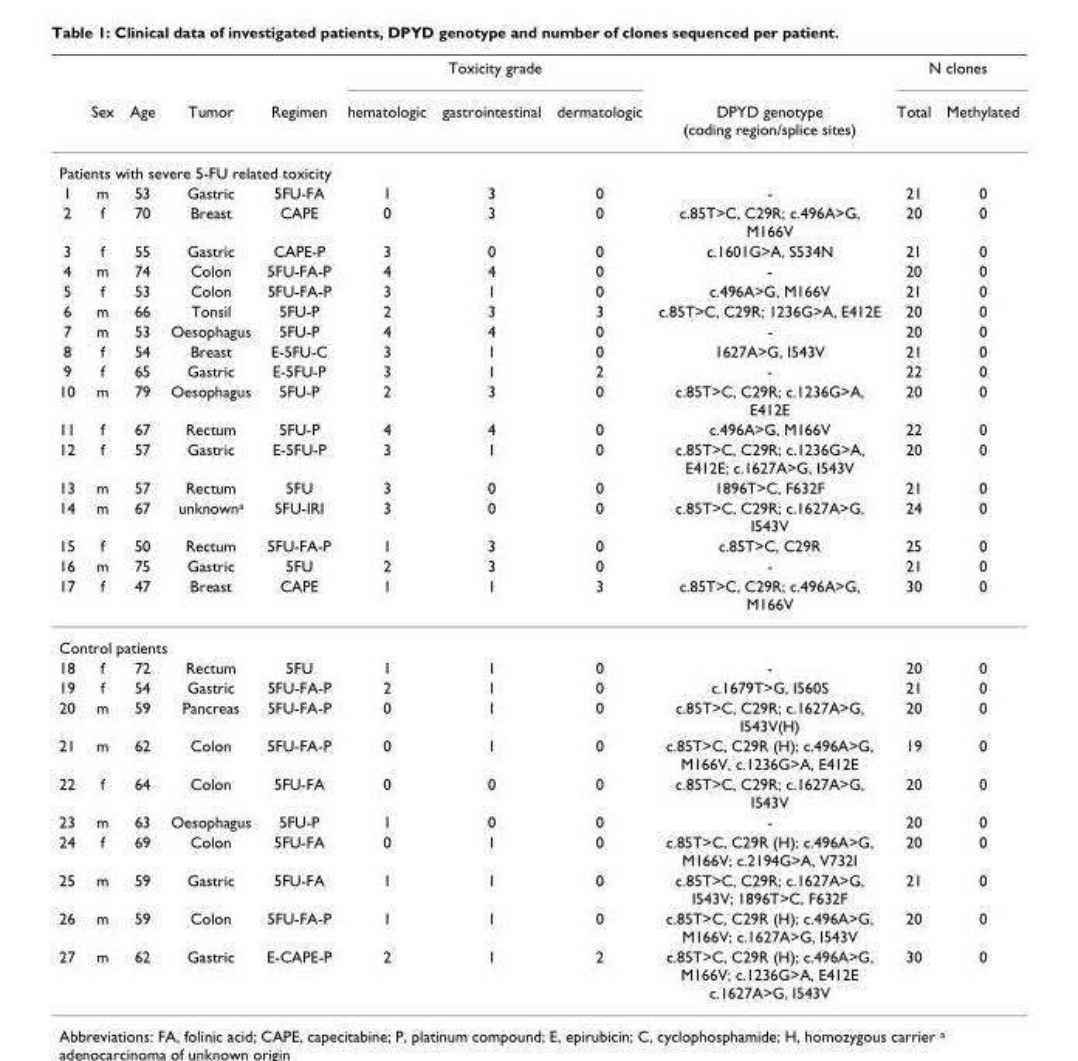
<table><thead><tr><td rowspan="2"></td><td rowspan="2">Sex</td><td rowspan="2">Age</td><td rowspan="2">Tumor</td><td rowspan="2">Regimen</td><td colspan="3">Toxicity grade</td><td rowspan="2">DPYD genotype (coding region/splice sites)</td><td colspan="2">N clones</td></tr><tr><td>hematologic</td><td>gastrointestinal</td><td>dermatologic</td><td>Total</td><td>Methylated</td></tr></thead><tbody><tr><td colspan="11">Patients with severe 5-FU related toxicity</td></tr><tr><td>1</td><td>m</td><td>53</td><td>Gastric</td><td>5FU-FA</td><td>1</td><td>3</td><td>0</td><td>-</td><td>21</td><td>0</td></tr><tr><td>2</td><td>f</td><td>70</td><td>Breast</td><td>CAPE</td><td>0</td><td>3</td><td>0</td><td>c.85T&gt;C, C29R; c.496A&gt;G, M166V</td><td>20</td><td>0</td></tr><tr><td>3</td><td>f</td><td>55</td><td>Gastric</td><td>CAPE-P</td><td>3</td><td>0</td><td>0</td><td>c.1601G&gt;A, S534N</td><td>21</td><td>0</td></tr><tr><td>4</td><td>m</td><td>74</td><td>Colon</td><td>5FU-FA-P</td><td>4</td><td>4</td><td>0</td><td>-</td><td>20</td><td>0</td></tr><tr><td>5</td><td>f</td><td>53</td><td>Colon</td><td>5FU-FA-P</td><td>3</td><td>1</td><td>0</td><td>c.496A&gt;G, M166V</td><td>21</td><td>0</td></tr><tr><td>6</td><td>m</td><td>66</td><td>Tonsil</td><td>5FU-P</td><td>2</td><td>3</td><td>3</td><td>c.85T&gt;C, C29R; 1236G&gt;A, E412E</td><td>20</td><td>0</td></tr><tr><td>7</td><td>m</td><td>53</td><td>Oesophagus</td><td>5FU-P</td><td>4</td><td>4</td><td>0</td><td>-</td><td>20</td><td>0</td></tr><tr><td>8</td><td>f</td><td>54</td><td>Breast</td><td>E-5FU-C</td><td>3</td><td>1</td><td>0</td><td>1627A&gt;G, I543V</td><td>21</td><td>0</td></tr><tr><td>9</td><td>f</td><td>65</td><td>Gastric</td><td>E-5FU-P</td><td>3</td><td>1</td><td>2</td><td>-</td><td>22</td><td>0</td></tr><tr><td>10</td><td>m</td><td>79</td><td>Oesophagus</td><td>5FU-P</td><td>2</td><td>3</td><td>0</td><td>c.85T&gt;C, C29R; c.1236G&gt;A, E412E</td><td>20</td><td>0</td></tr><tr><td>11</td><td>f</td><td>67</td><td>Rectum</td><td>5FU-P</td><td>4</td><td>4</td><td>0</td><td>c.496A&gt;G, M166V</td><td>22</td><td>0</td></tr><tr><td>12</td><td>f</td><td>57</td><td>Gastric</td><td>E-5FU-P</td><td>3</td><td>1</td><td>0</td><td>c.85T&gt;C, C29R; c.1236G&gt;A, E412E; c.1627A&gt;G, I543V</td><td>20</td><td>0</td></tr><tr><td>13</td><td>m</td><td>57</td><td>Rectum</td><td>5FU</td><td>3</td><td>0</td><td>0</td><td>1896T&gt;C, F632F</td><td>21</td><td>0</td></tr><tr><td>14</td><td>m</td><td>67</td><td>unknown<sup>a</sup></td><td>5FU-IRI</td><td>3</td><td>0</td><td>0</td><td>c.85T&gt;C, C29R; c.1627A&gt;G, I543V</td><td>24</td><td>0</td></tr><tr><td>15</td><td>f</td><td>50</td><td>Rectum</td><td>5FU-FA-P</td><td>1</td><td>3</td><td>0</td><td>c.85T&gt;C, C29R</td><td>25</td><td>0</td></tr><tr><td>16</td><td>m</td><td>75</td><td>Gastric</td><td>5FU</td><td>2</td><td>3</td><td>0</td><td>-</td><td>21</td><td>0</td></tr><tr><td>17</td><td>f</td><td>47</td><td>Breast</td><td>CAPE</td><td>1</td><td>1</td><td>3</td><td>c.85T&gt;C, C29R; c.496A&gt;G, M166V</td><td>30</td><td>0</td></tr><tr><td colspan="11">Control patients</td></tr><tr><td>18</td><td>f</td><td>72</td><td>Rectum</td><td>5FU</td><td>1</td><td>1</td><td>0</td><td>-</td><td>20</td><td>0</td></tr><tr><td>19</td><td>f</td><td>54</td><td>Gastric</td><td>5FU-FA-P</td><td>2</td><td>1</td><td>0</td><td>c.1679T&gt;G, I560S</td><td>21</td><td>0</td></tr><tr><td>20</td><td>m</td><td>59</td><td>Pancreas</td><td>5FU-FA-P</td><td>0</td><td>1</td><td>0</td><td>c.85T&gt;C, C29R; c.1627A&gt;G, I543V(H)</td><td>20</td><td>0</td></tr><tr><td>21</td><td>m</td><td>62</td><td>Colon</td><td>5FU-FA-P</td><td>0</td><td>1</td><td>0</td><td>c.85T&gt;C, C29R (H); c.496A&gt;G, M166V, c.1236G&gt;A, E412E</td><td>19</td><td>0</td></tr><tr><td>22</td><td>f</td><td>64</td><td>Colon</td><td>5FU-FA</td><td>0</td><td>0</td><td>0</td><td>c.85T&gt;C, C29R; c.1627A&gt;G, I543V</td><td>20</td><td>0</td></tr><tr><td>23</td><td>m</td><td>63</td><td>Oesophagus</td><td>5FU-P</td><td>1</td><td>0</td><td>0</td><td>-</td><td>20</td><td>0</td></tr><tr><td>24</td><td>f</td><td>69</td><td>Colon</td><td>5FU-FA</td><td>0</td><td>1</td><td>0</td><td>c.85T&gt;C, C29R (H); c.496A&gt;G, M166V; c.2194G&gt;A, V732I</td><td>20</td><td>0</td></tr><tr><td>25</td><td>m</td><td>59</td><td>Gastric</td><td>5FU-FA</td><td>1</td><td>1</td><td>0</td><td>c.85T&gt;C, C29R; c.1627A&gt;G, I543V; 1896T&gt;C, F632F</td><td>21</td><td>0</td></tr><tr><td>26</td><td>m</td><td>59</td><td>Colon</td><td>5FU-FA-P</td><td>1</td><td>1</td><td>0</td><td>c.85T&gt;C, C29R (H); c.496A&gt;G, M166V; c.1627A&gt;G, I543V</td><td>20</td><td>0</td></tr><tr><td>27</td><td>m</td><td>62</td><td>Gastric</td><td>E-CAPE-P</td><td>2</td><td>1</td><td>2</td><td>c.85T&gt;C, C29R (H); c.496A&gt;G, M166V; c.1236G&gt;A, E412E c.1627A&gt;G, I543V</td><td>30</td><td>0</td></tr></tbody></table>